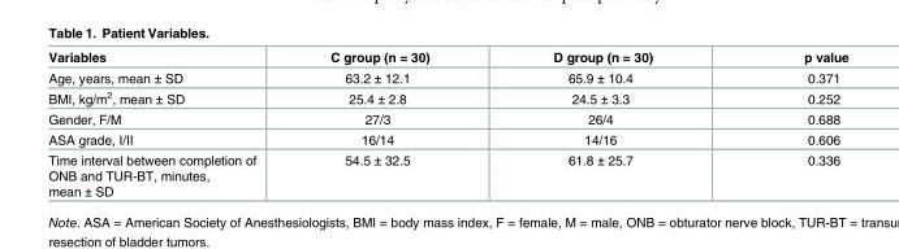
<table><thead><tr><td>Variables</td><td>C group (n = 30)</td><td>D group (n = 30)</td><td>p value</td></tr></thead><tbody><tr><td>Age, years, mean ± SD</td><td>63.2 ± 12.1</td><td>65.9 ± 10.4</td><td>0.371</td></tr><tr><td>BMI, kg/m<sup>2</sup>, mean ± SD</td><td>25.4 ± 2.8</td><td>24.5 ± 3.3</td><td>0.252</td></tr><tr><td>Gender, F/M</td><td>27/3</td><td>26/4</td><td>0.688</td></tr><tr><td>ASA grade, I/II</td><td>16/14</td><td>14/16</td><td>0.606</td></tr><tr><td>Time interval between completion of ONB and TUR-BT, minutes, mean ± SD</td><td>54.5 ± 32.5</td><td>61.8 ± 25.7</td><td>0.336</td></tr></tbody></table>